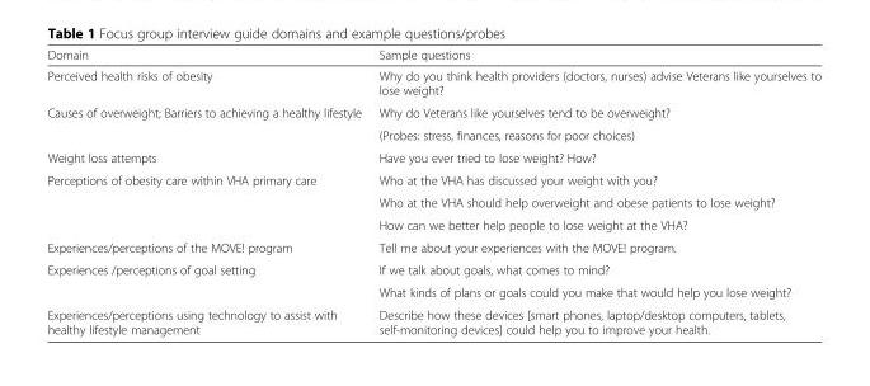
<table><thead><tr><td>Domain</td><td>Sample questions</td></tr></thead><tbody><tr><td>Perceived health risks of obesity</td><td>Why do you think health providers (doctors, nurses) advise Veterans like yourselves to lose weight?</td></tr><tr><td rowspan="2">Causes of overweight; Barriers to achieving a healthy lifestyle</td><td>Why do Veterans like yourselves tend to be overweight?</td></tr><tr><td>(Probes: stress, finances, reasons for poor choices)</td></tr><tr><td>Weight loss attempts</td><td>Have you ever tried to lose weight? How?</td></tr><tr><td rowspan="3">Perceptions of obesity care within VHA primary care</td><td>Who at the VHA has discussed your weight with you?</td></tr><tr><td>Who at the VHA should help overweight and obese patients to lose weight?</td></tr><tr><td>How can we better help people to lose weight at the VHA?</td></tr><tr><td>Experiences/perceptions of the MOVE! program</td><td>Tell me about your experiences with the MOVE! program.</td></tr><tr><td rowspan="2">Experiences /perceptions of goal setting</td><td>If we talk about goals, what comes to mind?</td></tr><tr><td>What kinds of plans or goals could you make that would help you lose weight?</td></tr><tr><td>Experiences/perceptions using technology to assist with healthy lifestyle management</td><td>Describe how these devices [smart phones, laptop/desktop computers, tablets, self-monitoring devices] could help you to improve your health.</td></tr></tbody></table>